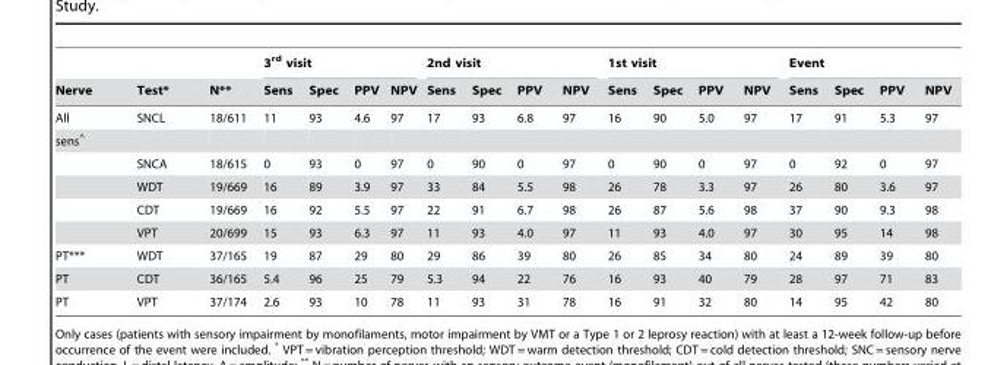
<table><thead><tr><td rowspan="2">Nerve</td><td rowspan="2">Test*</td><td rowspan="2">N**</td><td colspan="4">3<sup>rd</sup> visit</td><td colspan="4">2nd visit</td><td colspan="4">1st visit</td><td colspan="4">Event</td></tr><tr><td>Sens</td><td>Spec</td><td>PPV</td><td>NPV</td><td>Sens</td><td>Spec</td><td>PPV</td><td>NPV</td><td>Sens</td><td>Spec</td><td>PPV</td><td>NPV</td><td>Sens</td><td>Spec</td><td>PPV</td><td>NPV</td></tr></thead><tbody><tr><td>All</td><td>SNCL</td><td>18/611</td><td>11</td><td>93</td><td>4.6</td><td>97</td><td>17</td><td>93</td><td>6.8</td><td>97</td><td>16</td><td>90</td><td>5.0</td><td>97</td><td>17</td><td>91</td><td>5.3</td><td>97</td></tr><tr><td colspan="19">sens^</td></tr><tr><td></td><td>SNCA</td><td>18/615</td><td>0</td><td>93</td><td>0</td><td>97</td><td>0</td><td>90</td><td>0</td><td>97</td><td>0</td><td>90</td><td>0</td><td>97</td><td>0</td><td>92</td><td>0</td><td>97</td></tr><tr><td></td><td>WDT</td><td>19/669</td><td>16</td><td>89</td><td>3.9</td><td>97</td><td>33</td><td>84</td><td>5.5</td><td>98</td><td>26</td><td>78</td><td>3.3</td><td>97</td><td>26</td><td>80</td><td>3.6</td><td>97</td></tr><tr><td></td><td>CDT</td><td>19/669</td><td>16</td><td>92</td><td>5.5</td><td>97</td><td>22</td><td>91</td><td>6.7</td><td>98</td><td>26</td><td>87</td><td>5.6</td><td>98</td><td>37</td><td>90</td><td>9.3</td><td>98</td></tr><tr><td></td><td>VPT</td><td>20/699</td><td>15</td><td>93</td><td>6.3</td><td>97</td><td>11</td><td>93</td><td>4.0</td><td>97</td><td>11</td><td>93</td><td>4.0</td><td>97</td><td>30</td><td>95</td><td>14</td><td>98</td></tr><tr><td>PT***</td><td>WDT</td><td>37/165</td><td>19</td><td>87</td><td>29</td><td>80</td><td>29</td><td>86</td><td>39</td><td>80</td><td>26</td><td>85</td><td>34</td><td>80</td><td>24</td><td>89</td><td>39</td><td>80</td></tr><tr><td>PT</td><td>CDT</td><td>36/165</td><td>5.4</td><td>96</td><td>25</td><td>79</td><td>5.3</td><td>94</td><td>22</td><td>76</td><td>16</td><td>93</td><td>40</td><td>79</td><td>28</td><td>97</td><td>71</td><td>83</td></tr><tr><td>PT</td><td>VPT</td><td>37/174</td><td>2.6</td><td>93</td><td>10</td><td>78</td><td>11</td><td>93</td><td>31</td><td>78</td><td>16</td><td>91</td><td>32</td><td>80</td><td>14</td><td>95</td><td>42</td><td>80</td></tr></tbody></table>